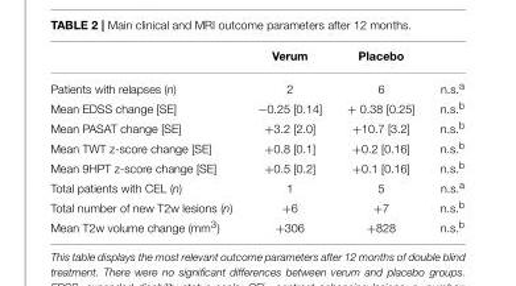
<table><thead><tr><td></td><td>Verum</td><td>Placebo</td><td></td></tr></thead><tbody><tr><td>Patients with relapses (n)</td><td>2</td><td>6</td><td>n.s.<sup>a</sup></td></tr><tr><td>Mean EDSS change [SE]</td><td>−0.25 [0.14]</td><td>+ 0.38 [0.25]</td><td>n.s.<sup>b</sup></td></tr><tr><td>Mean PASAT change [SE]</td><td>+3.2 [2.0]</td><td>+10.7 [3.2]</td><td>n.s.<sup>b</sup></td></tr><tr><td>Mean TWT z-score change [SE]</td><td>+0.8 [0.1]</td><td>+0.2 [0.16]</td><td>n.s.<sup>b</sup></td></tr><tr><td>Mean 9HPT z-score change [SE]</td><td>+0.5 [0.2]</td><td>+0.1 [0.16]</td><td>n.s.<sup>b</sup></td></tr><tr><td>Total patients with CEL (n)</td><td>1</td><td>5</td><td>n.s.<sup>a</sup></td></tr><tr><td>Total number of new T2w lesions (n)</td><td>+6</td><td>+7</td><td>n.s.<sup>b</sup></td></tr><tr><td>Mean T2w volume change (mm<sup>3</sup>)</td><td>+306</td><td>+828</td><td>n.s.<sup>b</sup></td></tr></tbody></table>